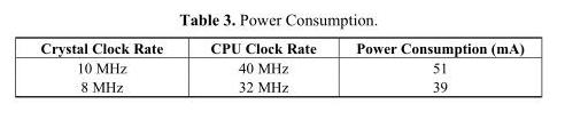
<table><thead><tr><td>Crystal Clock Rate</td><td>CPU Clock Rate</td><td>Power Consumption (mA)</td></tr></thead><tbody><tr><td>10 MHz</td><td>40 MHz</td><td>51</td></tr><tr><td>8 MHz</td><td>32 MHz</td><td>39</td></tr></tbody></table>